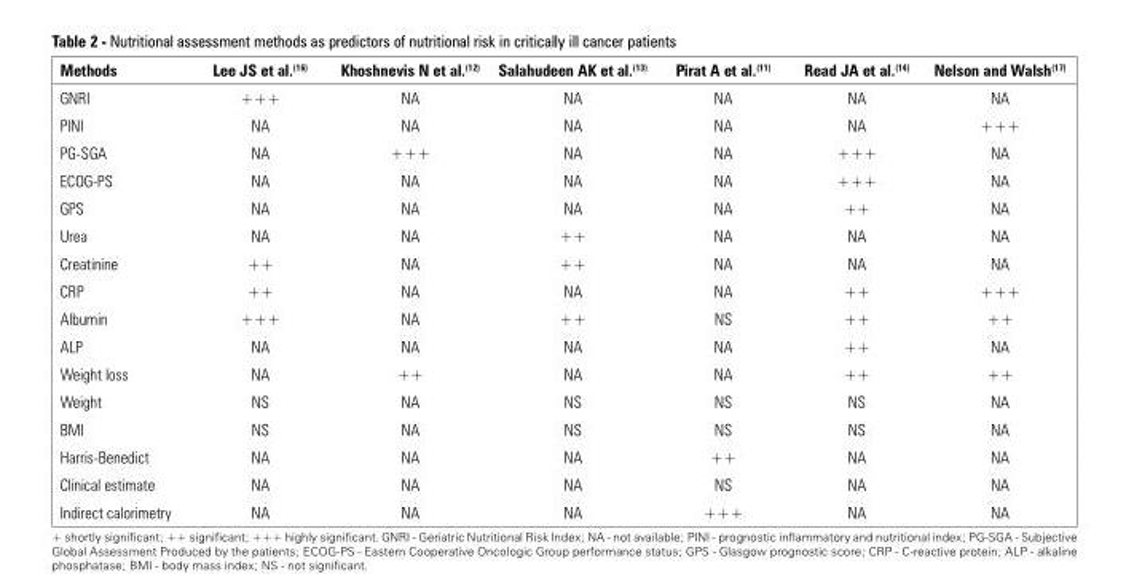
<table><thead><tr><td>Methods</td><td>Lee JS et al.<sup>(16)</sup></td><td>Khoshnevis N et al.<sup>(12)</sup></td><td>Salahudeen AK et al.<sup>(13)</sup></td><td>Pirat A et al.<sup>(11)</sup></td><td>Read JA et al.<sup>(14)</sup></td><td>Nelson and Walsh<sup>(17)</sup></td></tr></thead><tbody><tr><td>GNRI</td><td>+++</td><td>NA</td><td>NA</td><td>NA</td><td>NA</td><td>NA</td></tr><tr><td>PINI</td><td>NA</td><td>NA</td><td>NA</td><td>NA</td><td>NA</td><td>+++</td></tr><tr><td>PG-SGA</td><td>NA</td><td>+++</td><td>NA</td><td>NA</td><td>+++</td><td>NA</td></tr><tr><td>ECOG-PS</td><td>NA</td><td>NA</td><td>NA</td><td>NA</td><td>+++</td><td>NA</td></tr><tr><td>GPS</td><td>NA</td><td>NA</td><td>NA</td><td>NA</td><td>++</td><td>NA</td></tr><tr><td>Urea</td><td>NA</td><td>NA</td><td>++</td><td>NA</td><td>NA</td><td>NA</td></tr><tr><td>Creatinine</td><td>++</td><td>NA</td><td>++</td><td>NA</td><td>NA</td><td>NA</td></tr><tr><td>CRP</td><td>++</td><td>NA</td><td>NA</td><td>NA</td><td>++</td><td>+++</td></tr><tr><td>Albumin</td><td>+++</td><td>NA</td><td>++</td><td>NS</td><td>++</td><td>++</td></tr><tr><td>ALP</td><td>NA</td><td>NA</td><td>NA</td><td>NA</td><td>++</td><td>NA</td></tr><tr><td>Weight loss</td><td>NA</td><td>++</td><td>NA</td><td>NA</td><td>++</td><td>++</td></tr><tr><td>Weight</td><td>NS</td><td>NA</td><td>NS</td><td>NS</td><td>NS</td><td>NA</td></tr><tr><td>BMI</td><td>NS</td><td>NA</td><td>NS</td><td>NS</td><td>NS</td><td>NA</td></tr><tr><td>Harris-Benedict</td><td>NA</td><td>NA</td><td>NA</td><td>++</td><td>NA</td><td>NA</td></tr><tr><td>Clinical estimate</td><td>NA</td><td>NA</td><td>NA</td><td>NS</td><td>NA</td><td>NA</td></tr><tr><td>Indirect calorimetry</td><td>NA</td><td>NA</td><td>NA</td><td>+++</td><td>NA</td><td>NA</td></tr></tbody></table>